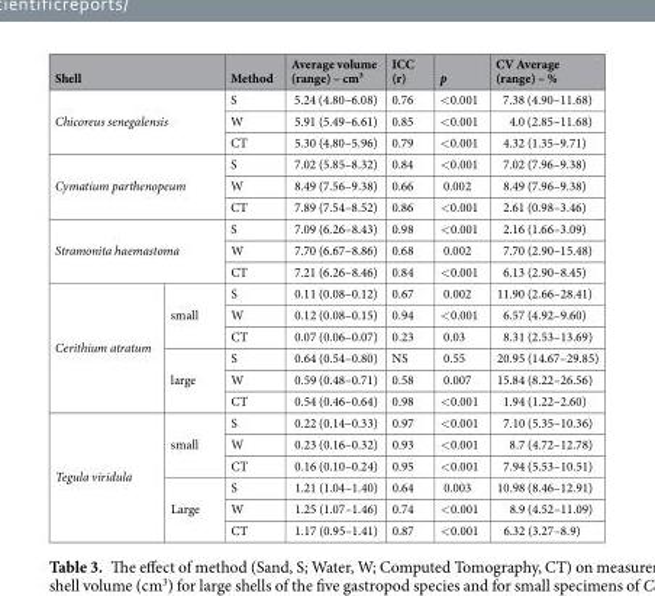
<table><thead><tr><td colspan="2">Shell</td><td>Method</td><td>Average volume (range) – cm³</td><td>ICC (r)</td><td>p</td><td>CV Average (range) – %</td></tr></thead><tbody><tr><td rowspan="3" colspan="2">Chicoreus senegalensis</td><td>S</td><td>5.24 (4.80–6.08)</td><td>0.76</td><td>&lt;0.001</td><td>7.38 (4.90–11.68)</td></tr><tr><td>W</td><td>5.91 (5.49–6.61)</td><td>0.85</td><td>&lt;0.001</td><td>4.0 (2.85–11.68)</td></tr><tr><td>CT</td><td>5.30 (4.80–5.96)</td><td>0.79</td><td>&lt;0.001</td><td>4.32 (1.35–9.71)</td></tr><tr><td rowspan="3" colspan="2">Cymatium parthenopeum</td><td>S</td><td>7.02 (5.85–8.32)</td><td>0.84</td><td>&lt;0.001</td><td>7.02 (7.96–9.38)</td></tr><tr><td>W</td><td>8.49 (7.56–9.38)</td><td>0.66</td><td>0.002</td><td>8.49 (7.96–9.38)</td></tr><tr><td>CT</td><td>7.89 (7.54–8.52)</td><td>0.86</td><td>&lt;0.001</td><td>2.61 (0.98–3.46)</td></tr><tr><td rowspan="3" colspan="2">Stramonita haemastoma</td><td>S</td><td>7.09 (6.26–8.43)</td><td>0.98</td><td>&lt;0.001</td><td>2.16 (1.66–3.09)</td></tr><tr><td>W</td><td>7.70 (6.67–8.86)</td><td>0.68</td><td>0.002</td><td>7.70 (2.90–15.48)</td></tr><tr><td>CT</td><td>7.21 (6.26–8.46)</td><td>0.84</td><td>&lt;0.001</td><td>6.13 (2.90–8.45)</td></tr><tr><td rowspan="6">Cerithium atratum</td><td rowspan="3">small</td><td>S</td><td>0.11 (0.08–0.12)</td><td>0.67</td><td>0.002</td><td>11.90 (2.66–28.41)</td></tr><tr><td>W</td><td>0.12 (0.08–0.15)</td><td>0.94</td><td>&lt;0.001</td><td>6.57 (4.92–9.60)</td></tr><tr><td>CT</td><td>0.07 (0.06–0.07)</td><td>0.23</td><td>0.03</td><td>8.31 (2.53–13.69)</td></tr><tr><td rowspan="3">large</td><td>S</td><td>0.64 (0.54–0.80)</td><td>NS</td><td>0.55</td><td>20.95 (14.67–29.85)</td></tr><tr><td>W</td><td>0.59 (0.48–0.71)</td><td>0.58</td><td>0.007</td><td>15.84 (8.22–26.56)</td></tr><tr><td>CT</td><td>0.54 (0.46–0.64)</td><td>0.98</td><td>&lt;0.001</td><td>1.94 (1.22–2.60)</td></tr><tr><td rowspan="6">Tegula viridula</td><td rowspan="3">small</td><td>S</td><td>0.22 (0.14–0.33)</td><td>0.97</td><td>&lt;0.001</td><td>7.10 (5.35–10.36)</td></tr><tr><td>W</td><td>0.23 (0.16–0.32)</td><td>0.93</td><td>&lt;0.001</td><td>8.7 (4.72–12.78)</td></tr><tr><td>CT</td><td>0.16 (0.10–0.24)</td><td>0.95</td><td>&lt;0.001</td><td>7.94 (5.53–10.51)</td></tr><tr><td rowspan="3">Large</td><td>S</td><td>1.21 (1.04–1.40)</td><td>0.64</td><td>0.003</td><td>10.98 (8.46–12.91)</td></tr><tr><td>W</td><td>1.25 (1.07–1.46)</td><td>0.74</td><td>&lt;0.001</td><td>8.9 (4.52–11.09)</td></tr><tr><td>CT</td><td>1.17 (0.95–1.41)</td><td>0.87</td><td>&lt;0.001</td><td>6.32 (3.27–8.9)</td></tr></tbody></table>